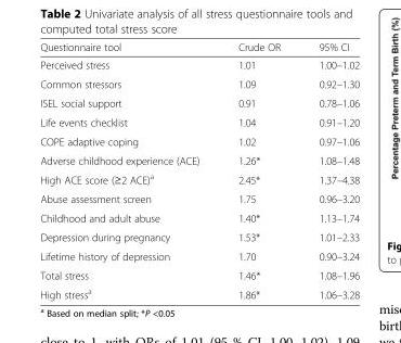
<table><thead><tr><td>Questionnaire tool</td><td>Crude OR</td><td>95% CI</td></tr></thead><tbody><tr><td>Perceived stress</td><td>1.01</td><td>1.00–1.02</td></tr><tr><td>Common stressors</td><td>1.09</td><td>0.92–1.30</td></tr><tr><td>ISEL social support</td><td>0.91</td><td>0.78–1.06</td></tr><tr><td>Life events checklist</td><td>1.04</td><td>0.91–1.20</td></tr><tr><td>COPE adaptive coping</td><td>1.02</td><td>0.97–1.06</td></tr><tr><td>Adverse childhood experience (ACE)</td><td>1.26*</td><td>1.08–1.48</td></tr><tr><td>High ACE score (≥2 ACE)<sup>a</sup></td><td>2.45*</td><td>1.37–4.38</td></tr><tr><td>Abuse assessment screen</td><td>1.75</td><td>0.96–3.20</td></tr><tr><td>Childhood and adult abuse</td><td>1.40*</td><td>1.13–1.74</td></tr><tr><td>Depression during pregnancy</td><td>1.53*</td><td>1.01–2.33</td></tr><tr><td>Lifetime history of depression</td><td>1.70</td><td>0.90–3.24</td></tr><tr><td>Total stress</td><td>1.46*</td><td>1.08–1.96</td></tr><tr><td>High stress<sup>a</sup></td><td>1.86*</td><td>1.06–3.28</td></tr></tbody></table>